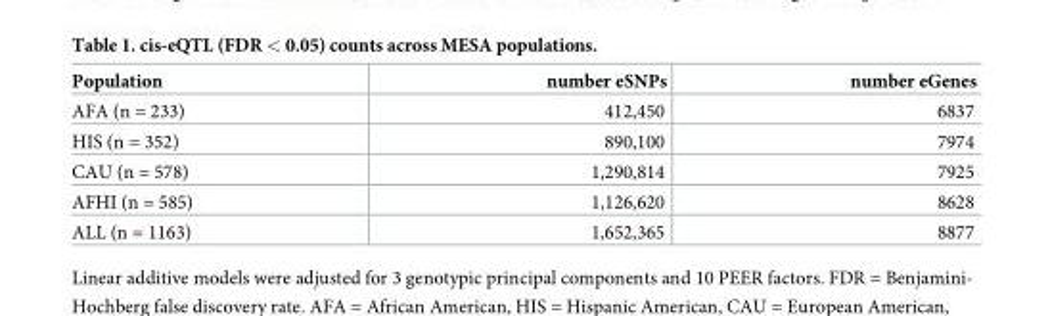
<table><thead><tr><td>Population</td><td>number eSNPs</td><td>number eGenes</td></tr></thead><tbody><tr><td>AFA (n = 233)</td><td>412,450</td><td>6837</td></tr><tr><td>HIS (n = 352)</td><td>890,100</td><td>7974</td></tr><tr><td>CAU (n = 578)</td><td>1,290,814</td><td>7925</td></tr><tr><td>AFHI (n = 585)</td><td>1,126,620</td><td>8628</td></tr><tr><td>ALL (n = 1163)</td><td>1,652,365</td><td>8877</td></tr></tbody></table>